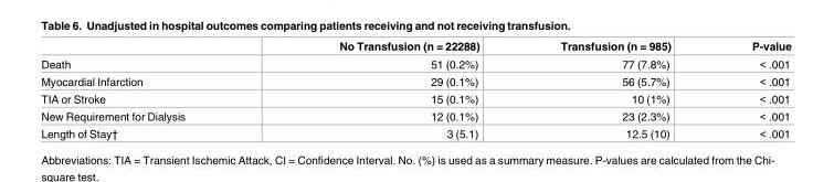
<table><thead><tr><td></td><td>No Transfusion (n = 22288)</td><td>Transfusion (n = 985)</td><td>P-value</td></tr></thead><tbody><tr><td>Death</td><td>51 (0.2%)</td><td>77 (7.8%)</td><td>&lt; .001</td></tr><tr><td>Myocardial Infarction</td><td>29 (0.1%)</td><td>56 (5.7%)</td><td>&lt; .001</td></tr><tr><td>TIA or Stroke</td><td>15 (0.1%)</td><td>10 (1%)</td><td>&lt; .001</td></tr><tr><td>New Requirement for Dialysis</td><td>12 (0.1%)</td><td>23 (2.3%)</td><td>&lt; .001</td></tr><tr><td>Length of Stay†</td><td>3 (5.1)</td><td>12.5 (10)</td><td>&lt; .001</td></tr></tbody></table>